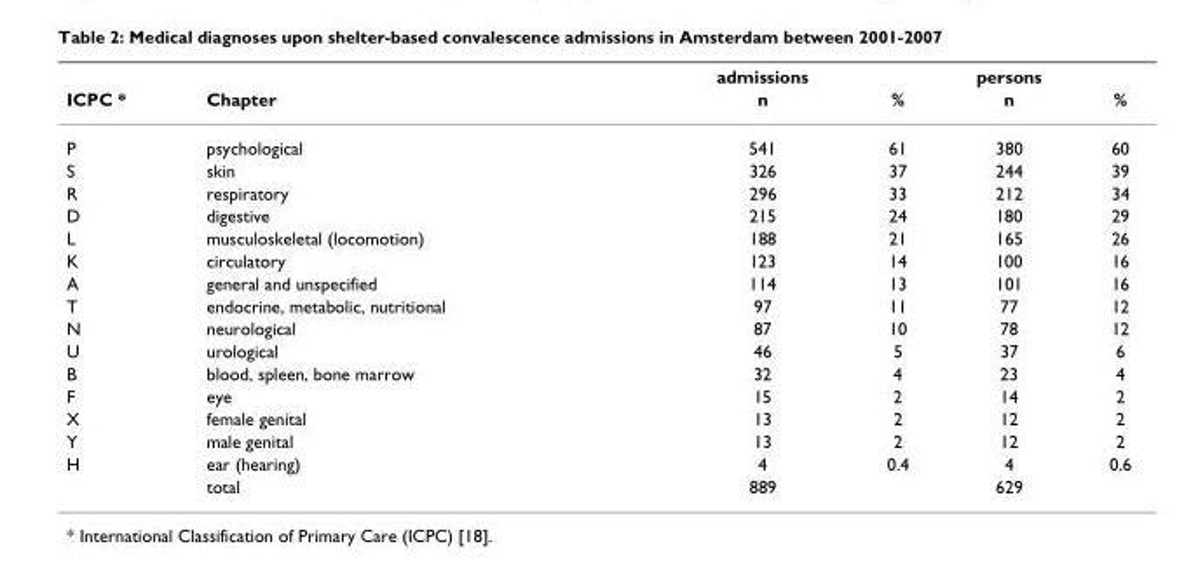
<table><thead><tr><td rowspan="2">ICPC *</td><td rowspan="2">Chapter</td><td rowspan="2">admissions n</td><td rowspan="2">%</td><td rowspan="2">persons n</td><td rowspan="2">%</td></tr><tr></tr></thead><tbody><tr><td>P</td><td>psychological</td><td>541</td><td>61</td><td>380</td><td>60</td></tr><tr><td>S</td><td>skin</td><td>326</td><td>37</td><td>244</td><td>39</td></tr><tr><td>R</td><td>respiratory</td><td>296</td><td>33</td><td>212</td><td>34</td></tr><tr><td>D</td><td>digestive</td><td>215</td><td>24</td><td>180</td><td>29</td></tr><tr><td>L</td><td>musculoskeletal (locomotion)</td><td>188</td><td>21</td><td>165</td><td>26</td></tr><tr><td>K</td><td>circulatory</td><td>123</td><td>14</td><td>100</td><td>16</td></tr><tr><td>A</td><td>general and unspecified</td><td>114</td><td>13</td><td>101</td><td>16</td></tr><tr><td>T</td><td>endocrine, metabolic, nutritional</td><td>97</td><td>11</td><td>77</td><td>12</td></tr><tr><td>N</td><td>neurological</td><td>87</td><td>10</td><td>78</td><td>12</td></tr><tr><td>U</td><td>urological</td><td>46</td><td>5</td><td>37</td><td>6</td></tr><tr><td>B</td><td>blood, spleen, bone marrow</td><td>32</td><td>4</td><td>23</td><td>4</td></tr><tr><td>F</td><td>eye</td><td>15</td><td>2</td><td>14</td><td>2</td></tr><tr><td>X</td><td>female genital</td><td>13</td><td>2</td><td>12</td><td>2</td></tr><tr><td>Y</td><td>male genital</td><td>13</td><td>2</td><td>12</td><td>2</td></tr><tr><td rowspan="2">H</td><td>ear (hearing)</td><td>4</td><td>0.4</td><td>4</td><td>0.6</td></tr><tr><td>total</td><td>889</td><td></td><td>629</td><td></td></tr></tbody></table>